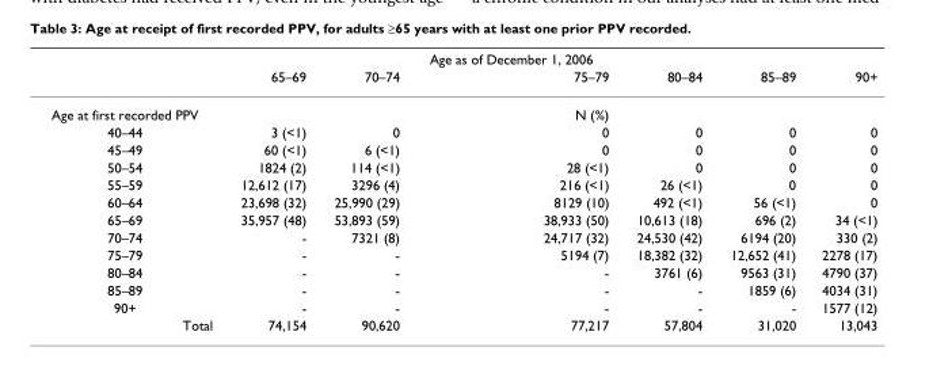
<table><thead><tr><td rowspan="2"></td><td rowspan="2">65–69</td><td rowspan="2">70–74</td><td rowspan="2">Age as of December 1, 2006 75–79</td><td rowspan="2">80–84</td><td rowspan="2">85–89</td><td rowspan="2">90+</td></tr><tr></tr></thead><tbody><tr><td>Age at first recorded PPV</td><td></td><td></td><td>N (%)</td><td></td><td></td><td></td></tr><tr><td>40–44</td><td>3 (&lt;1)</td><td>0</td><td>0</td><td>0</td><td>0</td><td>0</td></tr><tr><td>45–49</td><td>60 (&lt;1)</td><td>6 (&lt;1)</td><td>0</td><td>0</td><td>0</td><td>0</td></tr><tr><td>50–54</td><td>1824 (2)</td><td>114 (&lt;1)</td><td>28 (&lt;1)</td><td>0</td><td>0</td><td>0</td></tr><tr><td>55–59</td><td>12,612 (17)</td><td>3296 (4)</td><td>216 (&lt;1)</td><td>26 (&lt;1)</td><td>0</td><td>0</td></tr><tr><td>60–64</td><td>23,698 (32)</td><td>25,990 (29)</td><td>8129 (10)</td><td>492 (&lt;1)</td><td>56 (&lt;1)</td><td>0</td></tr><tr><td>65–69</td><td>35,957 (48)</td><td>53,893 (59)</td><td>38,933 (50)</td><td>10,613 (18)</td><td>696 (2)</td><td>34 (&lt;1)</td></tr><tr><td>70–74</td><td>-</td><td>7321 (8)</td><td>24,717 (32)</td><td>24,530 (42)</td><td>6194 (20)</td><td>330 (2)</td></tr><tr><td>75–79</td><td>-</td><td>-</td><td>5194 (7)</td><td>18,382 (32)</td><td>12,652 (41)</td><td>2278 (17)</td></tr><tr><td>80–84</td><td>-</td><td>-</td><td>-</td><td>3761 (6)</td><td>9563 (31)</td><td>4790 (37)</td></tr><tr><td>85–89</td><td>-</td><td>-</td><td>-</td><td>-</td><td>1859 (6)</td><td>4034 (31)</td></tr><tr><td>90+</td><td>-</td><td>-</td><td>-</td><td>-</td><td>-</td><td>1577 (12)</td></tr><tr><td>Total</td><td>74,154</td><td>90,620</td><td>77,217</td><td>57,804</td><td>31,020</td><td>13,043</td></tr></tbody></table>